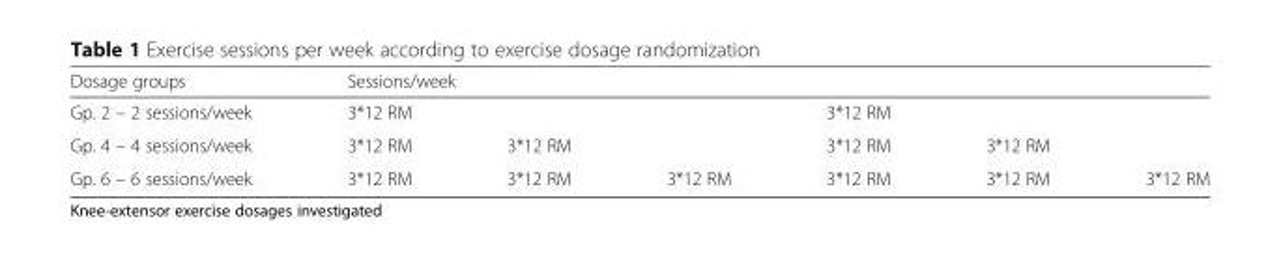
<table><thead><tr><td rowspan="4">Dosage groups Gp. 2 – 2 sessions/week Gp. 4 – 4 sessions/week Gp. 6 – 6 sessions/week</td><td colspan="6">Sessions/week</td></tr><tr><td colspan="3">3*12 RM</td><td colspan="3">3*12 RM</td></tr><tr><td rowspan="2">3*12 RM 3*12 RM</td><td colspan="2">3*12 RM</td><td rowspan="2">3*12 RM 3*12 RM</td><td colspan="2">3*12 RM</td></tr><tr><td>3*12 RM</td><td>3*12 RM</td><td>3*12 RM</td><td>3*12 RM</td></tr></thead><tbody></tbody></table>